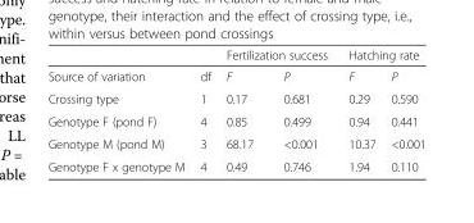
<table><thead><tr><td rowspan="2">Source of variation</td><td rowspan="2">df</td><td colspan="2">Fertilization success</td><td colspan="2">Hatching rate</td></tr><tr><td>F</td><td>P</td><td>F</td><td>P</td></tr></thead><tbody><tr><td>Crossing type</td><td>1</td><td>0.17</td><td>0.681</td><td>0.29</td><td>0.590</td></tr><tr><td>Genotype F (pond F)</td><td>4</td><td>0.85</td><td>0.499</td><td>0.94</td><td>0.441</td></tr><tr><td>Genotype M (pond M)</td><td>3</td><td>68.17</td><td>&lt;0.001</td><td>10.37</td><td>&lt;0.001</td></tr><tr><td>Genotype F x genotype M</td><td>4</td><td>0.49</td><td>0.746</td><td>1.94</td><td>0.110</td></tr></tbody></table>